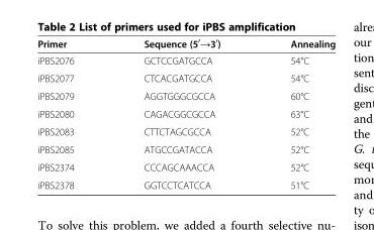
<table><thead><tr><td>Primer</td><td>Sequence (5<sup>′</sup>→3<sup>′</sup>)</td><td>Annealing</td></tr></thead><tbody><tr><td>iPBS2076</td><td>GCTCCGATGCCA</td><td>54°C</td></tr><tr><td>iPBS2077</td><td>CTCACGATGCCA</td><td>54°C</td></tr><tr><td>iPBS2079</td><td>AGGTGGGCGCCA</td><td>60°C</td></tr><tr><td>iPBS2080</td><td>CAGACGGCGCCA</td><td>63°C</td></tr><tr><td>iPBS2083</td><td>CTTCTAGCGCCA</td><td>52°C</td></tr><tr><td>iPBS2085</td><td>ATGCCGATACCA</td><td>52°C</td></tr><tr><td>iPBS2374</td><td>CCCAGCAAACCA</td><td>52°C</td></tr><tr><td>iPBS2378</td><td>GGTCCTCATCCA</td><td>51°C</td></tr></tbody></table>